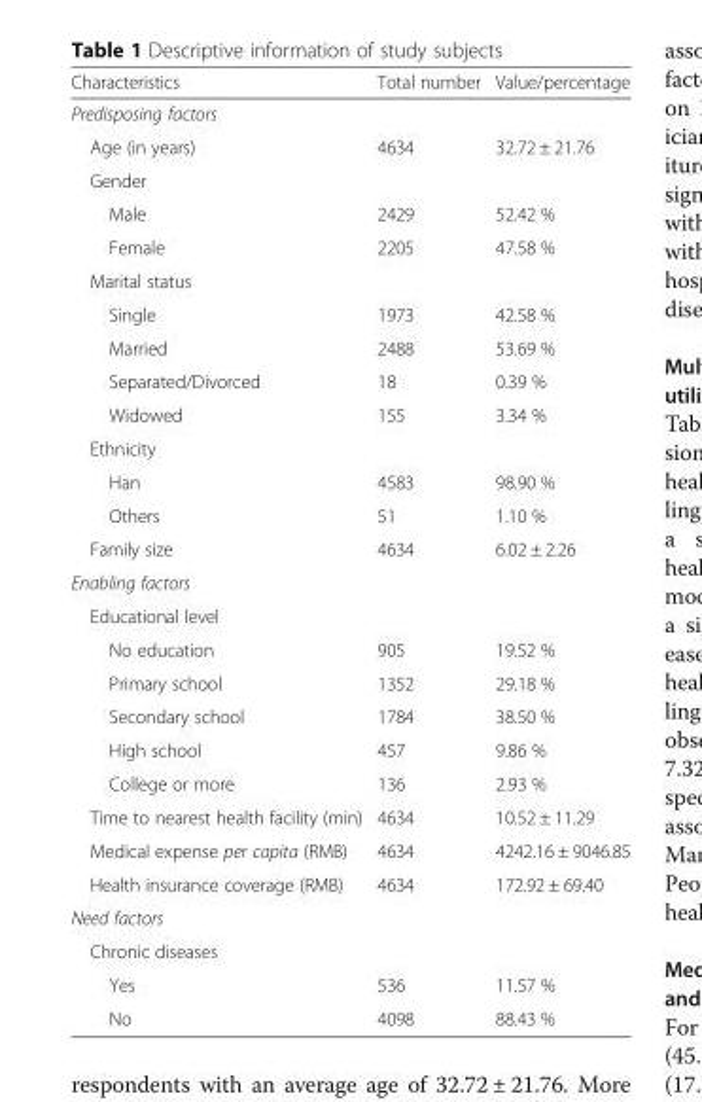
<table><thead><tr><td>Characteristics</td><td>Total number</td><td>Value/percentage</td></tr></thead><tbody><tr><td colspan="3">Predisposing factors</td></tr><tr><td>Age (in years)</td><td>4634</td><td>32.72 ± 21.76</td></tr><tr><td colspan="3">Gender</td></tr><tr><td>Male</td><td>2429</td><td>52.42 %</td></tr><tr><td>Female</td><td>2205</td><td>47.58 %</td></tr><tr><td colspan="3">Marital status</td></tr><tr><td>Single</td><td>1973</td><td>42.58 %</td></tr><tr><td>Married</td><td>2488</td><td>53.69 %</td></tr><tr><td>Separated/Divorced</td><td>18</td><td>0.39 %</td></tr><tr><td>Widowed</td><td>155</td><td>3.34 %</td></tr><tr><td colspan="3">Ethnicity</td></tr><tr><td>Han</td><td>4583</td><td>98.90 %</td></tr><tr><td>Others</td><td>51</td><td>1.10 %</td></tr><tr><td>Family size</td><td>4634</td><td>6.02 ± 2.26</td></tr><tr><td colspan="3">Enabling factors</td></tr><tr><td colspan="3">Educational level</td></tr><tr><td>No education</td><td>905</td><td>19.52 %</td></tr><tr><td>Primary school</td><td>1352</td><td>29.18 %</td></tr><tr><td>Secondary school</td><td>1784</td><td>38.50 %</td></tr><tr><td>High school</td><td>457</td><td>9.86 %</td></tr><tr><td>College or more</td><td>136</td><td>2.93 %</td></tr><tr><td>Time to nearest health facility (min)</td><td>4634</td><td>10.52 ± 11.29</td></tr><tr><td>Medical expense per capita (RMB)</td><td>4634</td><td>4242.16 ± 9046.85</td></tr><tr><td>Health insurance coverage (RMB)</td><td>4634</td><td>172.92 ± 69.40</td></tr><tr><td colspan="3">Need factors</td></tr><tr><td colspan="3">Chronic diseases</td></tr><tr><td>Yes</td><td>536</td><td>11.57 %</td></tr><tr><td>No</td><td>4098</td><td>88.43 %</td></tr></tbody></table>